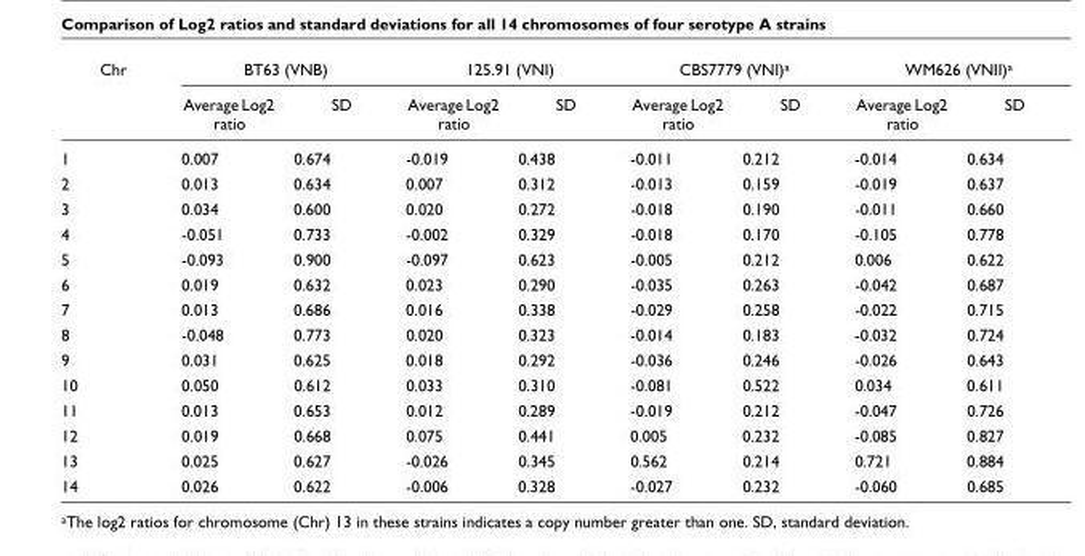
<table><thead><tr><td rowspan="2">Chr</td><td colspan="2">BT63 (VNB)</td><td colspan="2">125.91 (VNI)</td><td colspan="2">CBS7779 (VNI)<sup>a</sup></td><td colspan="2">WM626 (VNII)<sup>a</sup></td></tr><tr><td>Average Log2 ratio</td><td>SD</td><td>Average Log2 ratio</td><td>SD</td><td>Average Log2 ratio</td><td>SD</td><td>Average Log2 ratio</td><td>SD</td></tr></thead><tbody><tr><td>1</td><td>0.007</td><td>0.674</td><td>-0.019</td><td>0.438</td><td>-0.011</td><td>0.212</td><td>-0.014</td><td>0.634</td></tr><tr><td>2</td><td>0.013</td><td>0.634</td><td>0.007</td><td>0.312</td><td>-0.013</td><td>0.159</td><td>-0.019</td><td>0.637</td></tr><tr><td>3</td><td>0.034</td><td>0.600</td><td>0.020</td><td>0.272</td><td>-0.018</td><td>0.190</td><td>-0.011</td><td>0.660</td></tr><tr><td>4</td><td>-0.051</td><td>0.733</td><td>-0.002</td><td>0.329</td><td>-0.018</td><td>0.170</td><td>-0.105</td><td>0.778</td></tr><tr><td>5</td><td>-0.093</td><td>0.900</td><td>-0.097</td><td>0.623</td><td>-0.005</td><td>0.212</td><td>0.006</td><td>0.622</td></tr><tr><td>6</td><td>0.019</td><td>0.632</td><td>0.023</td><td>0.290</td><td>-0.035</td><td>0.263</td><td>-0.042</td><td>0.687</td></tr><tr><td>7</td><td>0.013</td><td>0.686</td><td>0.016</td><td>0.338</td><td>-0.029</td><td>0.258</td><td>-0.022</td><td>0.715</td></tr><tr><td>8</td><td>-0.048</td><td>0.773</td><td>0.020</td><td>0.323</td><td>-0.014</td><td>0.183</td><td>-0.032</td><td>0.724</td></tr><tr><td>9</td><td>0.031</td><td>0.625</td><td>0.018</td><td>0.292</td><td>-0.036</td><td>0.246</td><td>-0.026</td><td>0.643</td></tr><tr><td>10</td><td>0.050</td><td>0.612</td><td>0.033</td><td>0.310</td><td>-0.081</td><td>0.522</td><td>0.034</td><td>0.611</td></tr><tr><td>11</td><td>0.013</td><td>0.653</td><td>0.012</td><td>0.289</td><td>-0.019</td><td>0.212</td><td>-0.047</td><td>0.726</td></tr><tr><td>12</td><td>0.019</td><td>0.668</td><td>0.075</td><td>0.441</td><td>0.005</td><td>0.232</td><td>-0.085</td><td>0.827</td></tr><tr><td>13</td><td>0.025</td><td>0.627</td><td>-0.026</td><td>0.345</td><td>0.562</td><td>0.214</td><td>0.721</td><td>0.884</td></tr><tr><td>14</td><td>0.026</td><td>0.622</td><td>-0.006</td><td>0.328</td><td>-0.027</td><td>0.232</td><td>-0.060</td><td>0.685</td></tr></tbody></table>